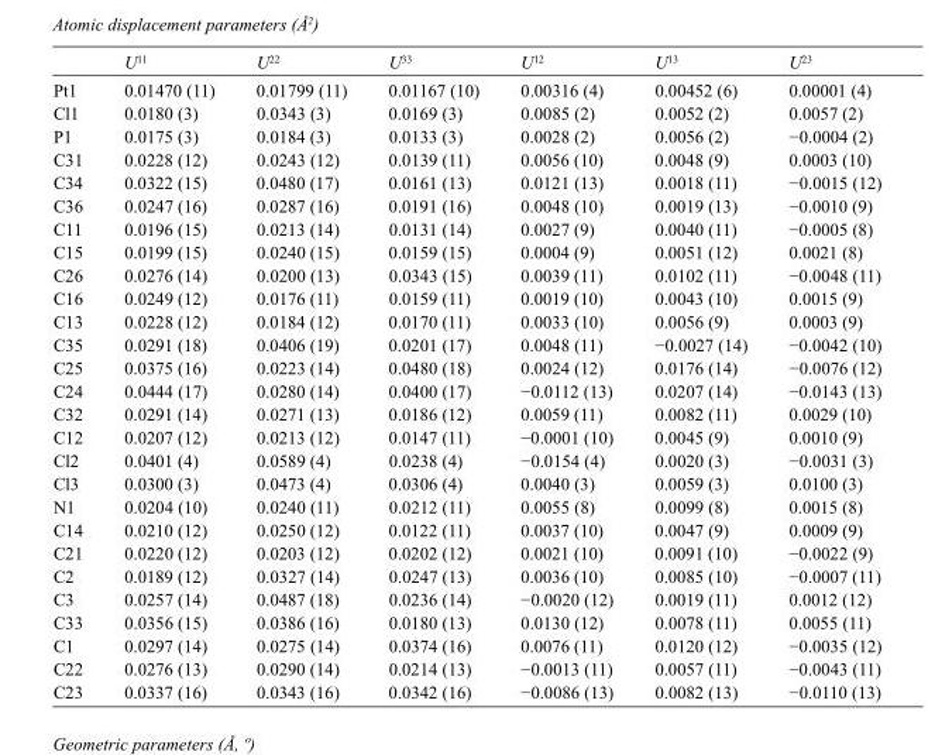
<table><thead><tr><td></td><td>U<sup>11</sup></td><td>U<sup>22</sup></td><td>U<sup>33</sup></td><td>U<sup>12</sup></td><td>U<sup>13</sup></td><td>U<sup>23</sup></td></tr></thead><tbody><tr><td>Pt1</td><td>0.01470 (11)</td><td>0.01799 (11)</td><td>0.01167 (10)</td><td>0.00316 (4)</td><td>0.00452 (6)</td><td>0.00001 (4)</td></tr><tr><td>Cl1</td><td>0.0180 (3)</td><td>0.0343 (3)</td><td>0.0169 (3)</td><td>0.0085 (2)</td><td>0.0052 (2)</td><td>0.0057 (2)</td></tr><tr><td>P1</td><td>0.0175 (3)</td><td>0.0184 (3)</td><td>0.0133 (3)</td><td>0.0028 (2)</td><td>0.0056 (2)</td><td>−0.0004 (2)</td></tr><tr><td>C31</td><td>0.0228 (12)</td><td>0.0243 (12)</td><td>0.0139 (11)</td><td>0.0056 (10)</td><td>0.0048 (9)</td><td>0.0003 (10)</td></tr><tr><td>C34</td><td>0.0322 (15)</td><td>0.0480 (17)</td><td>0.0161 (13)</td><td>0.0121 (13)</td><td>0.0018 (11)</td><td>−0.0015 (12)</td></tr><tr><td>C36</td><td>0.0247 (16)</td><td>0.0287 (16)</td><td>0.0191 (16)</td><td>0.0048 (10)</td><td>0.0019 (13)</td><td>−0.0010 (9)</td></tr><tr><td>C11</td><td>0.0196 (15)</td><td>0.0213 (14)</td><td>0.0131 (14)</td><td>0.0027 (9)</td><td>0.0040 (11)</td><td>−0.0005 (8)</td></tr><tr><td>C15</td><td>0.0199 (15)</td><td>0.0240 (15)</td><td>0.0159 (15)</td><td>0.0004 (9)</td><td>0.0051 (12)</td><td>0.0021 (8)</td></tr><tr><td>C26</td><td>0.0276 (14)</td><td>0.0200 (13)</td><td>0.0343 (15)</td><td>0.0039 (11)</td><td>0.0102 (11)</td><td>−0.0048 (11)</td></tr><tr><td>C16</td><td>0.0249 (12)</td><td>0.0176 (11)</td><td>0.0159 (11)</td><td>0.0019 (10)</td><td>0.0043 (10)</td><td>0.0015 (9)</td></tr><tr><td>C13</td><td>0.0228 (12)</td><td>0.0184 (12)</td><td>0.0170 (11)</td><td>0.0033 (10)</td><td>0.0056 (9)</td><td>0.0003 (9)</td></tr><tr><td>C35</td><td>0.0291 (18)</td><td>0.0406 (19)</td><td>0.0201 (17)</td><td>0.0048 (11)</td><td>−0.0027 (14)</td><td>−0.0042 (10)</td></tr><tr><td>C25</td><td>0.0375 (16)</td><td>0.0223 (14)</td><td>0.0480 (18)</td><td>0.0024 (12)</td><td>0.0176 (14)</td><td>−0.0076 (12)</td></tr><tr><td>C24</td><td>0.0444 (17)</td><td>0.0280 (14)</td><td>0.0400 (17)</td><td>−0.0112 (13)</td><td>0.0207 (14)</td><td>−0.0143 (13)</td></tr><tr><td>C32</td><td>0.0291 (14)</td><td>0.0271 (13)</td><td>0.0186 (12)</td><td>0.0059 (11)</td><td>0.0082 (11)</td><td>0.0029 (10)</td></tr><tr><td>C12</td><td>0.0207 (12)</td><td>0.0213 (12)</td><td>0.0147 (11)</td><td>−0.0001 (10)</td><td>0.0045 (9)</td><td>0.0010 (9)</td></tr><tr><td>Cl2</td><td>0.0401 (4)</td><td>0.0589 (4)</td><td>0.0238 (4)</td><td>−0.0154 (4)</td><td>0.0020 (3)</td><td>−0.0031 (3)</td></tr><tr><td>Cl3</td><td>0.0300 (3)</td><td>0.0473 (4)</td><td>0.0306 (4)</td><td>0.0040 (3)</td><td>0.0059 (3)</td><td>0.0100 (3)</td></tr><tr><td>N1</td><td>0.0204 (10)</td><td>0.0240 (11)</td><td>0.0212 (11)</td><td>0.0055 (8)</td><td>0.0099 (8)</td><td>0.0015 (8)</td></tr><tr><td>C14</td><td>0.0210 (12)</td><td>0.0250 (12)</td><td>0.0122 (11)</td><td>0.0037 (10)</td><td>0.0047 (9)</td><td>0.0009 (9)</td></tr><tr><td>C21</td><td>0.0220 (12)</td><td>0.0203 (12)</td><td>0.0202 (12)</td><td>0.0021 (10)</td><td>0.0091 (10)</td><td>−0.0022 (9)</td></tr><tr><td>C2</td><td>0.0189 (12)</td><td>0.0327 (14)</td><td>0.0247 (13)</td><td>0.0036 (10)</td><td>0.0085 (10)</td><td>−0.0007 (11)</td></tr><tr><td>C3</td><td>0.0257 (14)</td><td>0.0487 (18)</td><td>0.0236 (14)</td><td>−0.0020 (12)</td><td>0.0019 (11)</td><td>0.0012 (12)</td></tr><tr><td>C33</td><td>0.0356 (15)</td><td>0.0386 (16)</td><td>0.0180 (13)</td><td>0.0130 (12)</td><td>0.0078 (11)</td><td>0.0055 (11)</td></tr><tr><td>C1</td><td>0.0297 (14)</td><td>0.0275 (14)</td><td>0.0374 (16)</td><td>0.0076 (11)</td><td>0.0120 (12)</td><td>−0.0035 (12)</td></tr><tr><td>C22</td><td>0.0276 (13)</td><td>0.0290 (14)</td><td>0.0214 (13)</td><td>−0.0013 (11)</td><td>0.0057 (11)</td><td>−0.0043 (11)</td></tr><tr><td>C23</td><td>0.0337 (16)</td><td>0.0343 (16)</td><td>0.0342 (16)</td><td>−0.0086 (13)</td><td>0.0082 (13)</td><td>−0.0110 (13)</td></tr></tbody></table>